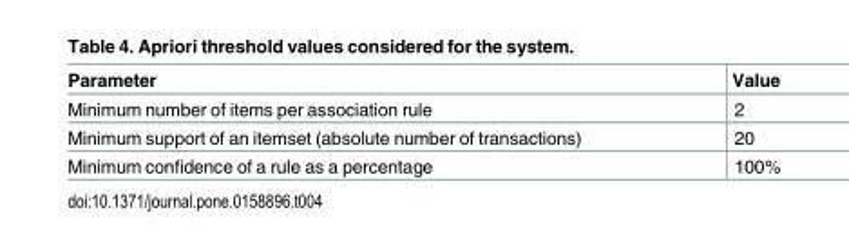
<table><thead><tr><td>Parameter</td><td>Value</td></tr></thead><tbody><tr><td>Minimum number of items per association rule</td><td>2</td></tr><tr><td>Minimum support of an itemset (absolute number of transactions)</td><td>20</td></tr><tr><td>Minimum confidence of a rule as a percentage</td><td>100%</td></tr></tbody></table>